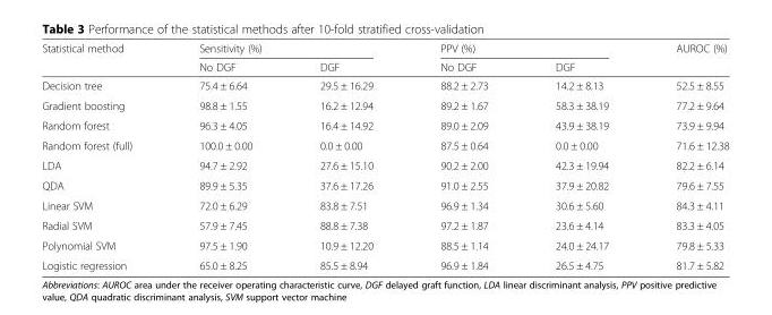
<table><thead><tr><td rowspan="2">Statistical method</td><td colspan="2">Sensitivity (%)</td><td colspan="2">PPV (%)</td><td rowspan="2">AUROC (%)</td></tr><tr><td>No DGF</td><td>DGF</td><td>No DGF</td><td>DGF</td></tr></thead><tbody><tr><td>Decision tree</td><td>75.4 ± 6.64</td><td>29.5 ± 16.29</td><td>88.2 ± 2.73</td><td>14.2 ± 8.13</td><td>52.5 ± 8.55</td></tr><tr><td>Gradient boosting</td><td>98.8 ± 1.55</td><td>16.2 ± 12.94</td><td>89.2 ± 1.67</td><td>58.3 ± 38.19</td><td>77.2 ± 9.64</td></tr><tr><td>Random forest</td><td>96.3 ± 4.05</td><td>16.4 ± 14.92</td><td>89.0 ± 2.09</td><td>43.9 ± 38.19</td><td>73.9 ± 9.94</td></tr><tr><td>Random forest (full)</td><td>100.0 ± 0.00</td><td>0.0 ± 0.00</td><td>87.5 ± 0.64</td><td>0.0 ± 0.00</td><td>71.6 ± 12.38</td></tr><tr><td>LDA</td><td>94.7 ± 2.92</td><td>27.6 ± 15.10</td><td>90.2 ± 2.00</td><td>42.3 ± 19.94</td><td>82.2 ± 6.14</td></tr><tr><td>QDA</td><td>89.9 ± 5.35</td><td>37.6 ± 17.26</td><td>91.0 ± 2.55</td><td>37.9 ± 20.82</td><td>79.6 ± 7.55</td></tr><tr><td>Linear SVM</td><td>72.0 ± 6.29</td><td>83.8 ± 7.51</td><td>96.9 ± 1.34</td><td>30.6 ± 5.60</td><td>84.3 ± 4.11</td></tr><tr><td>Radial SVM</td><td>57.9 ± 7.45</td><td>88.8 ± 7.38</td><td>97.2 ± 1.87</td><td>23.6 ± 4.14</td><td>83.3 ± 4.05</td></tr><tr><td>Polynomial SVM</td><td>97.5 ± 1.90</td><td>10.9 ± 12.20</td><td>88.5 ± 1.14</td><td>24.0 ± 24.17</td><td>79.8 ± 5.33</td></tr><tr><td>Logistic regression</td><td>65.0 ± 8.25</td><td>85.5 ± 8.94</td><td>96.9 ± 1.84</td><td>26.5 ± 4.75</td><td>81.7 ± 5.82</td></tr></tbody></table>